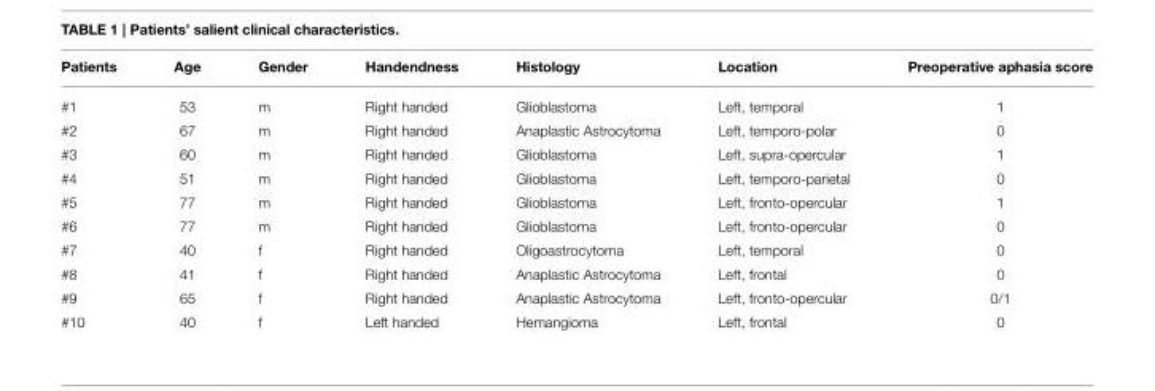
<table><thead><tr><td>Patients</td><td>Age</td><td>Gender</td><td>Handendness</td><td>Histology</td><td>Location</td><td>Preoperative aphasia score</td></tr></thead><tbody><tr><td>#1</td><td>53</td><td>m</td><td>Right handed</td><td>Glioblastoma</td><td>Left, temporal</td><td>1</td></tr><tr><td>#2</td><td>67</td><td>m</td><td>Right handed</td><td>Anaplastic Astrocytoma</td><td>Left, temporo-polar</td><td>0</td></tr><tr><td>#3</td><td>60</td><td>m</td><td>Right handed</td><td>Glioblastoma</td><td>Left, supra-opercular</td><td>1</td></tr><tr><td>#4</td><td>51</td><td>m</td><td>Right handed</td><td>Glioblastoma</td><td>Left, temporo-parietal</td><td>0</td></tr><tr><td>#5</td><td>77</td><td>m</td><td>Right handed</td><td>Glioblastoma</td><td>Left, fronto-opercular</td><td>1</td></tr><tr><td>#6</td><td>77</td><td>m</td><td>Right handed</td><td>Glioblastoma</td><td>Left, fronto-opercular</td><td>0</td></tr><tr><td>#7</td><td>40</td><td>f</td><td>Right handed</td><td>Oligoastrocytoma</td><td>Left, temporal</td><td>0</td></tr><tr><td>#8</td><td>41</td><td>f</td><td>Right handed</td><td>Anaplastic Astrocytoma</td><td>Left, frontal</td><td>0</td></tr><tr><td>#9</td><td>65</td><td>f</td><td>Right handed</td><td>Anaplastic Astrocytoma</td><td>Left, fronto-opercular</td><td>0/1</td></tr><tr><td>#10</td><td>40</td><td>f</td><td>Left handed</td><td>Hemangioma</td><td>Left, frontal</td><td>0</td></tr></tbody></table>